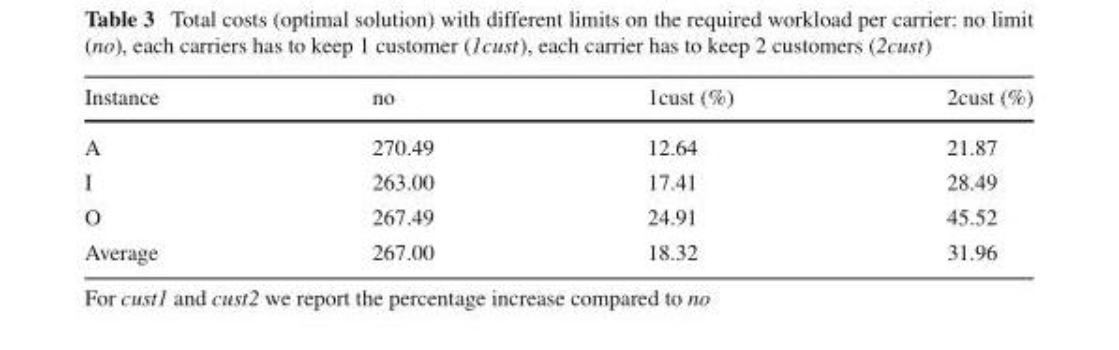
<table><thead><tr><td>Instance</td><td>no</td><td>1cust (%)</td><td>2cust (%)</td></tr></thead><tbody><tr><td>A</td><td>270.49</td><td>12.64</td><td>21.87</td></tr><tr><td>I</td><td>263.00</td><td>17.41</td><td>28.49</td></tr><tr><td>O</td><td>267.49</td><td>24.91</td><td>45.52</td></tr><tr><td>Average</td><td>267.00</td><td>18.32</td><td>31.96</td></tr></tbody></table>